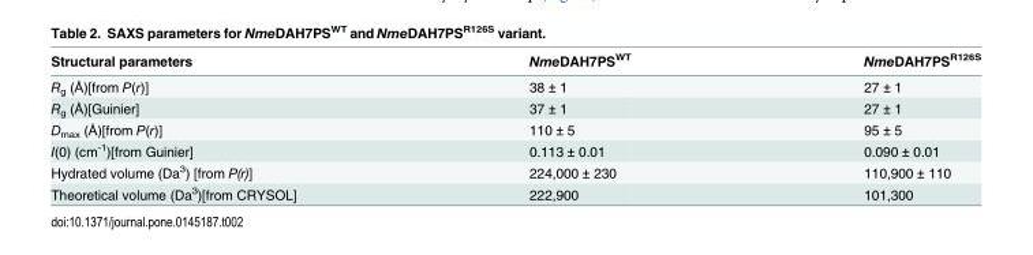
<table><thead><tr><td>Structural parameters</td><td>NmeDAH7PS<sup>WT</sup></td><td>NmeDAH7PS<sup>R126S</sup></td></tr></thead><tbody><tr><td>R<sub>g</sub> (Å)[from P(r)]</td><td>38 ± 1</td><td>27 ± 1</td></tr><tr><td>R<sub>g</sub> (Å)[Guinier]</td><td>37 ± 1</td><td>27 ± 1</td></tr><tr><td>D<sub>max</sub> (Å)[from P(r)]</td><td>110 ± 5</td><td>95 ± 5</td></tr><tr><td>I(0) (cm<sup>-1</sup>)[from Guinier]</td><td>0.113 ± 0.01</td><td>0.090 ± 0.01</td></tr><tr><td>Hydrated volume (Da<sup>3</sup>) [from P(r)]</td><td>224,000 ± 230</td><td>110,900 ± 110</td></tr><tr><td>Theoretical volume (Da<sup>3</sup>)[from CRYSOL]</td><td>222,900</td><td>101,300</td></tr></tbody></table>